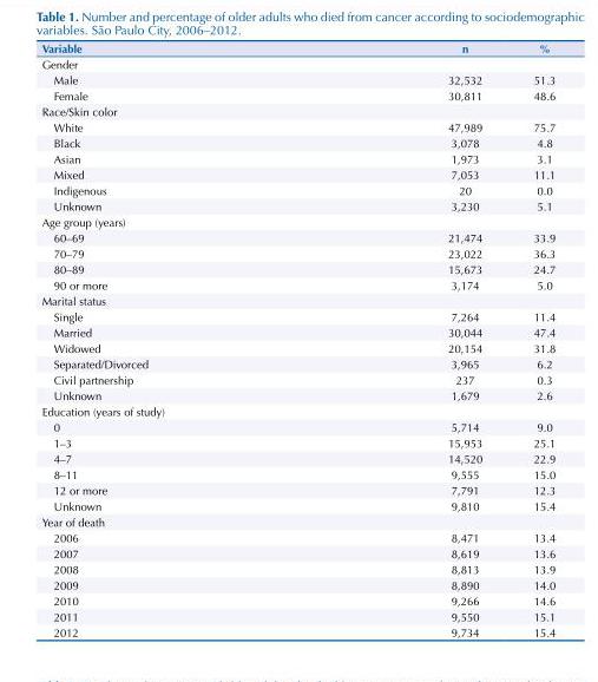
<table><thead><tr><td>Variable</td><td>n</td><td>%</td></tr></thead><tbody><tr><td colspan="3">Gender</td></tr><tr><td>Male</td><td>32,532</td><td>51.3</td></tr><tr><td>Female</td><td>30,811</td><td>48.6</td></tr><tr><td colspan="3">Race/Skin color</td></tr><tr><td>White</td><td>47,989</td><td>75.7</td></tr><tr><td>Black</td><td>3,078</td><td>4.8</td></tr><tr><td>Asian</td><td>1,973</td><td>3.1</td></tr><tr><td>Mixed</td><td>7,053</td><td>11.1</td></tr><tr><td>Indigenous</td><td>20</td><td>0.0</td></tr><tr><td>Unknown</td><td>3,230</td><td>5.1</td></tr><tr><td colspan="3">Age group (years)</td></tr><tr><td>60–69</td><td>21,474</td><td>33.9</td></tr><tr><td>70–79</td><td>23,022</td><td>36.3</td></tr><tr><td>80–89</td><td>15,673</td><td>24.7</td></tr><tr><td>90 or more</td><td>3,174</td><td>5.0</td></tr><tr><td colspan="3">Marital status</td></tr><tr><td>Single</td><td>7,264</td><td>11.4</td></tr><tr><td>Married</td><td>30,044</td><td>47.4</td></tr><tr><td>Widowed</td><td>20,154</td><td>31.8</td></tr><tr><td>Separated/Divorced</td><td>3,965</td><td>6.2</td></tr><tr><td>Civil partnership</td><td>237</td><td>0.3</td></tr><tr><td>Unknown</td><td>1,679</td><td>2.6</td></tr><tr><td colspan="3">Education (years of study)</td></tr><tr><td>0</td><td>5,714</td><td>9.0</td></tr><tr><td>1–3</td><td>15,953</td><td>25.1</td></tr><tr><td>4–7</td><td>14,520</td><td>22.9</td></tr><tr><td>8–11</td><td>9,555</td><td>15.0</td></tr><tr><td>12 or more</td><td>7,791</td><td>12.3</td></tr><tr><td>Unknown</td><td>9,810</td><td>15.4</td></tr><tr><td colspan="3">Year of death</td></tr><tr><td>2006</td><td>8,471</td><td>13.4</td></tr><tr><td>2007</td><td>8,619</td><td>13.6</td></tr><tr><td>2008</td><td>8,813</td><td>13.9</td></tr><tr><td>2009</td><td>8,890</td><td>14.0</td></tr><tr><td>2010</td><td>9,266</td><td>14.6</td></tr><tr><td>2011</td><td>9,550</td><td>15.1</td></tr><tr><td>2012</td><td>9,734</td><td>15.4</td></tr></tbody></table>